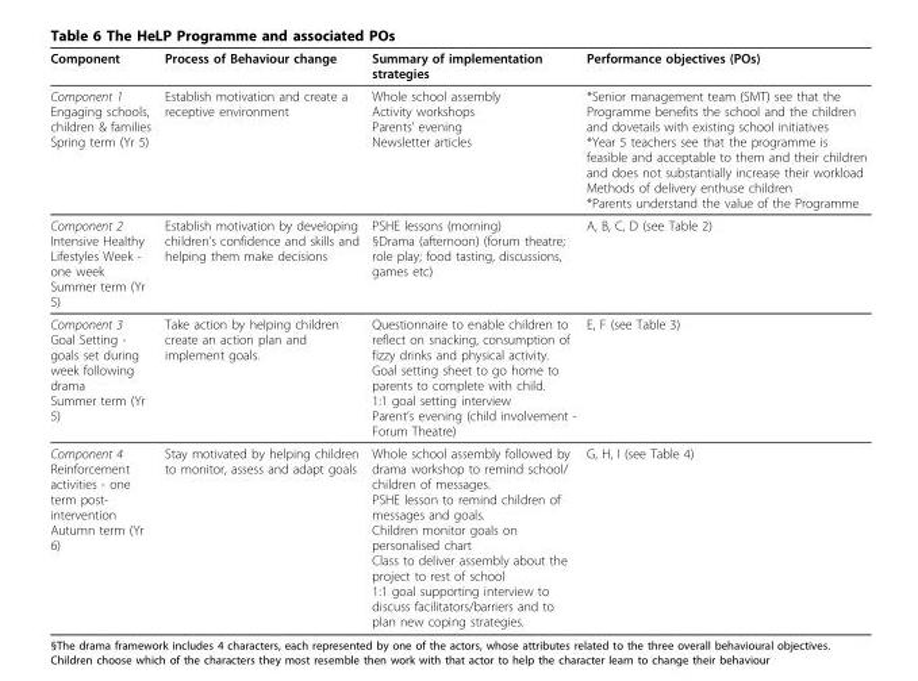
<table><thead><tr><td>Component</td><td>Process of Behaviour change</td><td>Summary of implementation strategies</td><td>Performance objectives (POs)</td></tr></thead><tbody><tr><td>Component 1 Engaging schools, children &amp; families Spring term (Yr 5)</td><td>Establish motivation and create a receptive environment</td><td>Whole school assembly Activity workshops Parents’ evening Newsletter articles</td><td>*Senior management team (SMT) see that the Programme benefits the school and the children and dovetails with existing school initiatives *Year 5 teachers see that the programme is feasible and acceptable to them and their children and does not substantially increase their workload Methods of delivery enthuse children *Parents understand the value of the Programme</td></tr><tr><td>Component 2 Intensive Healthy Lifestyles Week - one week Summer term (Yr 5)</td><td>Establish motivation by developing children’s confidence and skills and helping them make decisions</td><td>PSHE lessons (morning) §Drama (afternoon) (forum theatre; role play; food tasting, discussions, games etc)</td><td>A, B, C, D (see Table 2)</td></tr><tr><td>Component 3 Goal Setting - goals set during week following drama Summer term (Yr 5)</td><td>Take action by helping children create an action plan and implement goals.</td><td>Questionnaire to enable children to reflect on snacking, consumption of fizzy drinks and physical activity. Goal setting sheet to go home to parents to complete with child. 1:1 goal setting interview Parent’s evening (child involvement - Forum Theatre)</td><td>E, F (see Table 3)</td></tr><tr><td>Component 4 Reinforcement activities - one term post- intervention Autumn term (Yr 6)</td><td>Stay motivated by helping children to monitor, assess and adapt goals</td><td>Whole school assembly followed by drama workshop to remind school/ children of messages. PSHE lesson to remind children of messages and goals. Children monitor goals on personalised chart Class to deliver assembly about the project to rest of school 1:1 goal supporting interview to discuss facilitators/barriers and to plan new coping strategies.</td><td>G, H, I (see Table 4)</td></tr></tbody></table>